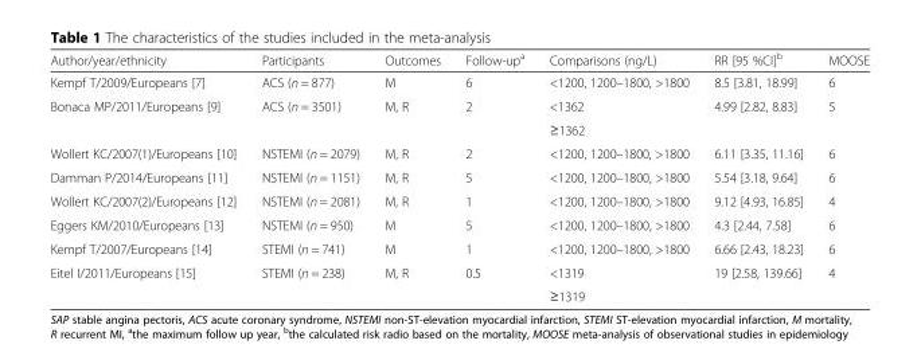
<table><thead><tr><td>Author/year/ethnicity</td><td>Participants</td><td>Outcomes</td><td>Follow-up<sup>a</sup></td><td>Comparisons (ng/L)</td><td>RR [95 %CI]<sup>b</sup></td><td>MOOSE</td></tr></thead><tbody><tr><td>Kempf T/2009/Europeans [7]</td><td>ACS (n = 877)</td><td>M</td><td>6</td><td>&lt;1200, 1200–1800, &gt;1800</td><td>8.5 [3.81, 18.99]</td><td>6</td></tr><tr><td rowspan="2">Bonaca MP/2011/Europeans [9]</td><td rowspan="2">ACS (n = 3501)</td><td rowspan="2">M, R</td><td rowspan="2">2</td><td>&lt;1362</td><td rowspan="2">4.99 [2.82, 8.83]</td><td rowspan="2">5</td></tr><tr><td>≥1362</td></tr><tr><td>Wollert KC/2007(1)/Europeans [10]</td><td>NSTEMI (n = 2079)</td><td>M, R</td><td>2</td><td>&lt;1200, 1200–1800, &gt;1800</td><td>6.11 [3.35, 11.16]</td><td>6</td></tr><tr><td>Damman P/2014/Europeans [11]</td><td>NSTEMI (n = 1151)</td><td>M, R</td><td>5</td><td>&lt;1200, 1200–1800, &gt;1800</td><td>5.54 [3.18, 9.64]</td><td>6</td></tr><tr><td>Wollert KC/2007(2)/Europeans [12]</td><td>NSTEMI (n = 2081)</td><td>M, R</td><td>1</td><td>&lt;1200, 1200–1800, &gt;1800</td><td>9.12 [4.93, 16.85]</td><td>4</td></tr><tr><td>Eggers KM/2010/Europeans [13]</td><td>NSTEMI (n = 950)</td><td>M</td><td>5</td><td>&lt;1200, 1200–1800, &gt;1800</td><td>4.3 [2.44, 7.58]</td><td>6</td></tr><tr><td>Kempf T/2007/Europeans [14]</td><td>STEMI (n = 741)</td><td>M</td><td>1</td><td>&lt;1200, 1200–1800, &gt;1800</td><td>6.66 [2.43, 18.23]</td><td>6</td></tr><tr><td rowspan="2">Eitel I/2011/Europeans [15]</td><td rowspan="2">STEMI (n = 238)</td><td rowspan="2">M, R</td><td rowspan="2">0.5</td><td>&lt;1319</td><td rowspan="2">19 [2.58, 139.66]</td><td rowspan="2">4</td></tr><tr><td>≥1319</td></tr></tbody></table>